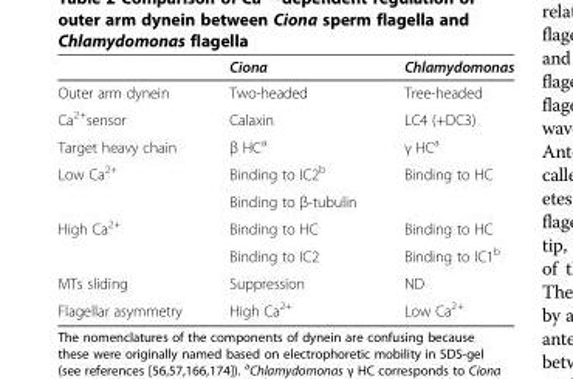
<table><thead><tr><td></td><td>Ciona</td><td>Chlamydomonas</td></tr></thead><tbody><tr><td>Outer arm dynein</td><td>Two-headed</td><td>Tree-headed</td></tr><tr><td>Ca<sup>2+</sup>sensor</td><td>Calaxin</td><td>LC4 (+DC3)</td></tr><tr><td>Target heavy chain</td><td>β HC<sup>a</sup></td><td>γ HC<sup>a</sup></td></tr><tr><td rowspan="2">Low Ca<sup>2+</sup></td><td>Binding to IC2<sup>b</sup></td><td rowspan="2">Binding to HC</td></tr><tr><td>Binding to β-tubulin</td></tr><tr><td rowspan="2">High Ca<sup>2+</sup></td><td>Binding to HC</td><td>Binding to HC</td></tr><tr><td>Binding to IC2</td><td>Binding to IC1<sup>b</sup></td></tr><tr><td>MTs sliding</td><td>Suppression</td><td>ND</td></tr><tr><td>Flagellar asymmetry</td><td>High Ca<sup>2+</sup></td><td>Low Ca<sup>2+</sup></td></tr></tbody></table>